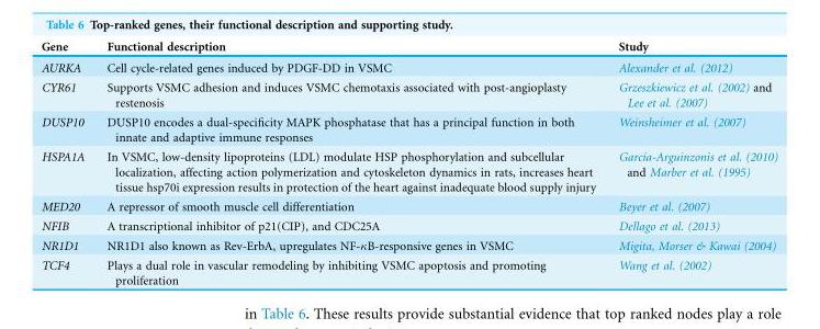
<table><thead><tr><td>Gene</td><td>Functional description</td><td>Study</td></tr></thead><tbody><tr><td>AURKA</td><td>Cell cycle-related genes induced by PDGF-DD in VSMC</td><td>Alexander et al. (2012)</td></tr><tr><td>CYR61</td><td>Supports VSMC adhesion and induces VSMC chemotaxis associated with post-angioplasty restenosis</td><td>Grzeszkiewicz et al. (2002) and Lee et al. (2007)</td></tr><tr><td>DUSP10</td><td>DUSP10 encodes a dual-specificity MAPK phosphatase that has a principal function in both innate and adaptive immune responses</td><td>Weinsheimer et al. (2007)</td></tr><tr><td>HSPA1A</td><td>In VSMC, low-density lipoproteins (LDL) modulate HSP phosphorylation and subcellular localization, affecting action polymerization and cytoskeleton dynamics in rats, increases heart tissue hsp70i expression results in protection of the heart against inadequate blood supply injury</td><td>Garcı´a-Arguinzonis et al. (2010) and Marber et al. (1995)</td></tr><tr><td>MED20</td><td>A repressor of smooth muscle cell differentiation</td><td>Beyer et al. (2007)</td></tr><tr><td>NFIB</td><td>A transcriptional inhibitor of p21(CIP), and CDC25A</td><td>Dellago et al. (2013)</td></tr><tr><td>NR1D1</td><td>NR1D1 also known as Rev-ErbA, upregulates NF-κB-responsive genes in VSMC</td><td>Migita, Morser &amp; Kawai (2004)</td></tr><tr><td>TCF4</td><td>Plays a dual role in vascular remodeling by inhibiting VSMC apoptosis and promoting proliferation</td><td>Wang et al. (2002)</td></tr></tbody></table>